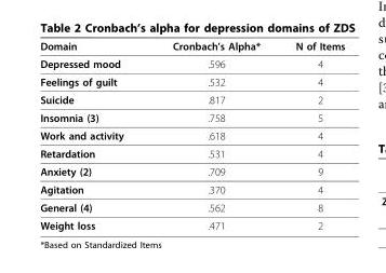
<table><thead><tr><td>Domain</td><td>Cronbach’s Alpha*</td><td>N of Items</td></tr></thead><tbody><tr><td>Depressed mood</td><td>.596</td><td>4</td></tr><tr><td>Feelings of guilt</td><td>.532</td><td>4</td></tr><tr><td>Suicide</td><td>.817</td><td>2</td></tr><tr><td>Insomnia (3)</td><td>.758</td><td>5</td></tr><tr><td>Work and activity</td><td>.618</td><td>4</td></tr><tr><td>Retardation</td><td>.531</td><td>4</td></tr><tr><td>Anxiety (2)</td><td>.709</td><td>9</td></tr><tr><td>Agitation</td><td>.370</td><td>4</td></tr><tr><td>General (4)</td><td>.562</td><td>8</td></tr><tr><td>Weight loss</td><td>.471</td><td>2</td></tr></tbody></table>